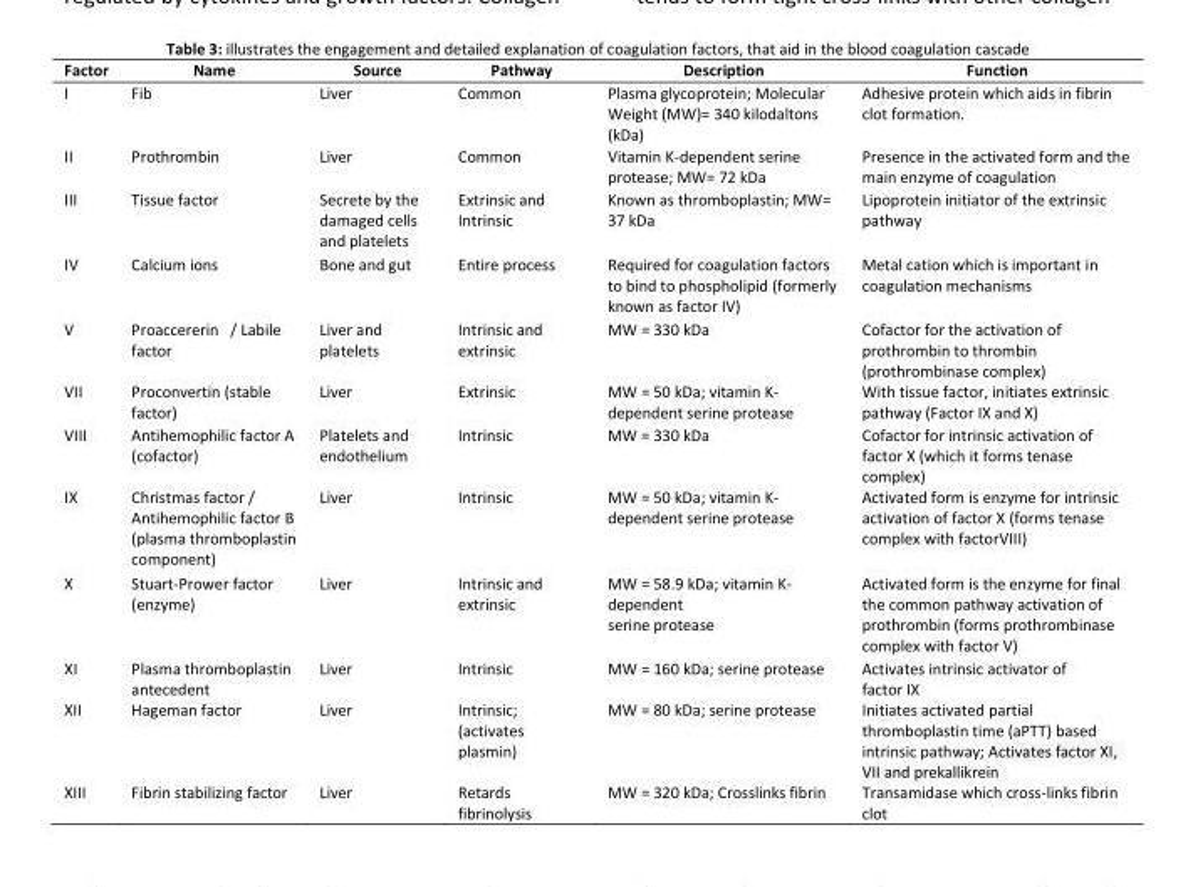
<table><thead><tr><td>Factor</td><td>Name</td><td>Source</td><td>Pathway</td><td>Description</td><td>Function</td></tr></thead><tbody><tr><td>I</td><td>Fib</td><td>Liver</td><td>Common</td><td>Plasma glycoprotein; Molecular Weight (MW)= 340 kilodaltons (kDa)</td><td>Adhesive protein which aids in fibrin clot formation.</td></tr><tr><td>II</td><td>Prothrombin</td><td>Liver</td><td>Common</td><td>Vitamin K-dependent serine protease; MW= 72 kDa</td><td>Presence in the activated form and the main enzyme of coagulation</td></tr><tr><td>III</td><td>Tissue factor</td><td>Secrete by the damaged cells and platelets</td><td>Extrinsic and Intrinsic</td><td>Known as thromboplastin; MW= 37 kDa</td><td>Lipoprotein initiator of the extrinsic pathway</td></tr><tr><td>IV</td><td>Calcium ions</td><td>Bone and gut</td><td>Entire process</td><td>Required for coagulation factors to bind to phospholipid (formerly known as factor IV)</td><td>Metal cation which is important in coagulation mechanisms</td></tr><tr><td>V</td><td>Proaccererin / Labile factor</td><td>Liver and platelets</td><td>Intrinsic and extrinsic</td><td>MW = 330 kDa</td><td>Cofactor for the activation of prothrombin to thrombin (prothrombinase complex)</td></tr><tr><td>VII</td><td>Proconvertin (stable factor)</td><td>Liver</td><td>Extrinsic</td><td>MW = 50 kDa; vitamin K- dependent serine protease</td><td>With tissue factor, initiates extrinsic pathway (Factor IX and X)</td></tr><tr><td>VIII</td><td>Antihemophilic factor A (cofactor)</td><td>Platelets and endothelium</td><td>Intrinsic</td><td>MW = 330 kDa</td><td>Cofactor for intrinsic activation of factor X (which it forms tenase complex)</td></tr><tr><td>IX</td><td>Christmas factor / Antihemophilic factor B (plasma thromboplastin component)</td><td>Liver</td><td>Intrinsic</td><td>MW = 50 kDa; vitamin K- dependent serine protease</td><td>Activated form is enzyme for intrinsic activation of factor X (forms tenase complex with factorVIII)</td></tr><tr><td>X</td><td>Stuart-Prower factor (enzyme)</td><td>Liver</td><td>Intrinsic and extrinsic</td><td>MW = 58.9 kDa; vitamin K- dependent serine protease</td><td>Activated form is the enzyme for final the common pathway activation of prothrombin (forms prothrombinase complex with factor V)</td></tr><tr><td>XI</td><td>Plasma thromboplastin antecedent</td><td>Liver</td><td>Intrinsic</td><td>MW = 160 kDa; serine protease</td><td>Activates intrinsic activator of factor IX</td></tr><tr><td>XII</td><td>Hageman factor</td><td>Liver</td><td>Intrinsic; (activates plasmin)</td><td>MW = 80 kDa; serine protease</td><td>Initiates activated partial thromboplastin time (aPTT) based ; Activates factor XI, intrinsic pathway VII and prekallikrein</td></tr><tr><td>XIII</td><td>Fibrin stabilizing factor</td><td>Liver</td><td>Retards fibrinolysis</td><td>MW = 320 kDa; Crosslinks fibrin</td><td>Transamidase which cross-links fibrin clot</td></tr></tbody></table>